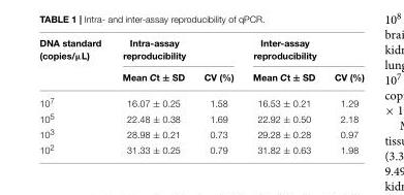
<table><thead><tr><td rowspan="2">DNA standard (copies/µL)</td><td colspan="2">Intra-assay reproducibility</td><td colspan="2">Inter-assay reproducibility</td></tr><tr><td>Mean Ct ± SD</td><td>CV (%)</td><td>Mean Ct ± SD</td><td>CV (%)</td></tr></thead><tbody><tr><td>10<sup>7</sup></td><td>16.07 ± 0.25</td><td>1.58</td><td>16.53 ± 0.21</td><td>1.29</td></tr><tr><td>10<sup>5</sup></td><td>22.48 ± 0.38</td><td>1.69</td><td>22.92 ± 0.50</td><td>2.18</td></tr><tr><td>10<sup>3</sup></td><td>28.98 ± 0.21</td><td>0.73</td><td>29.28 ± 0.28</td><td>0.97</td></tr><tr><td>10<sup>2</sup></td><td>31.33 ± 0.25</td><td>0.79</td><td>31.82 ± 0.63</td><td>1.98</td></tr></tbody></table>